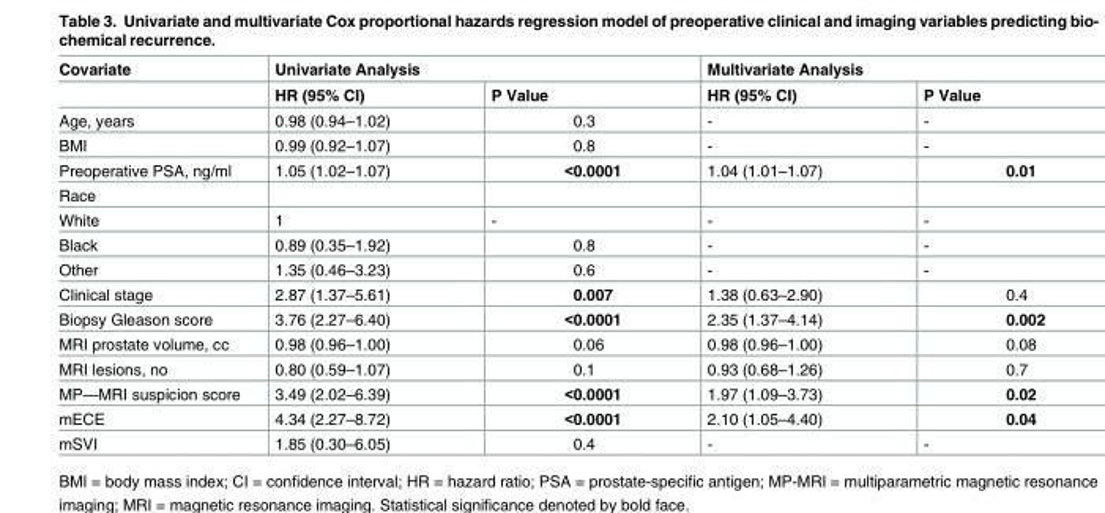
<table><thead><tr><td rowspan="2">Covariate</td><td colspan="2">Univariate Analysis</td><td colspan="2">Multivariate Analysis</td></tr><tr><td>HR (95% CI)</td><td>P Value</td><td>HR (95% CI)</td><td>P Value</td></tr></thead><tbody><tr><td>Age, years</td><td>0.98 (0.94–1.02)</td><td>0.3</td><td>-</td><td>-</td></tr><tr><td>BMI</td><td>0.99 (0.92–1.07)</td><td>0.8</td><td>-</td><td>-</td></tr><tr><td>Preoperative PSA, ng/ml</td><td>1.05 (1.02–1.07)</td><td>&lt;0.0001</td><td>1.04 (1.01–1.07)</td><td>0.01</td></tr><tr><td colspan="5">Race</td></tr><tr><td>White</td><td>1</td><td>-</td><td>-</td><td>-</td></tr><tr><td>Black</td><td>0.89 (0.35–1.92)</td><td>0.8</td><td>-</td><td>-</td></tr><tr><td>Other</td><td>1.35 (0.46–3.23)</td><td>0.6</td><td>-</td><td>-</td></tr><tr><td>Clinical stage</td><td>2.87 (1.37–5.61)</td><td>0.007</td><td>1.38 (0.63–2.90)</td><td>0.4</td></tr><tr><td>Biopsy Gleason score</td><td>3.76 (2.27–6.40)</td><td>&lt;0.0001</td><td>2.35 (1.37–4.14)</td><td>0.002</td></tr><tr><td>MRI prostate volume, cc</td><td>0.98 (0.96–1.00)</td><td>0.06</td><td>0.98 (0.96–1.00)</td><td>0.08</td></tr><tr><td>MRI lesions, no</td><td>0.80 (0.59–1.07)</td><td>0.1</td><td>0.93 (0.68–1.26)</td><td>0.7</td></tr><tr><td>MP—MRI suspicion score</td><td>3.49 (2.02–6.39)</td><td>&lt;0.0001</td><td>1.97 (1.09–3.73)</td><td>0.02</td></tr><tr><td>mECE</td><td>4.34 (2.27–8.72)</td><td>&lt;0.0001</td><td>2.10 (1.05–4.40)</td><td>0.04</td></tr><tr><td>mSVI</td><td>1.85 (0.30–6.05)</td><td>0.4</td><td>-</td><td>-</td></tr></tbody></table>